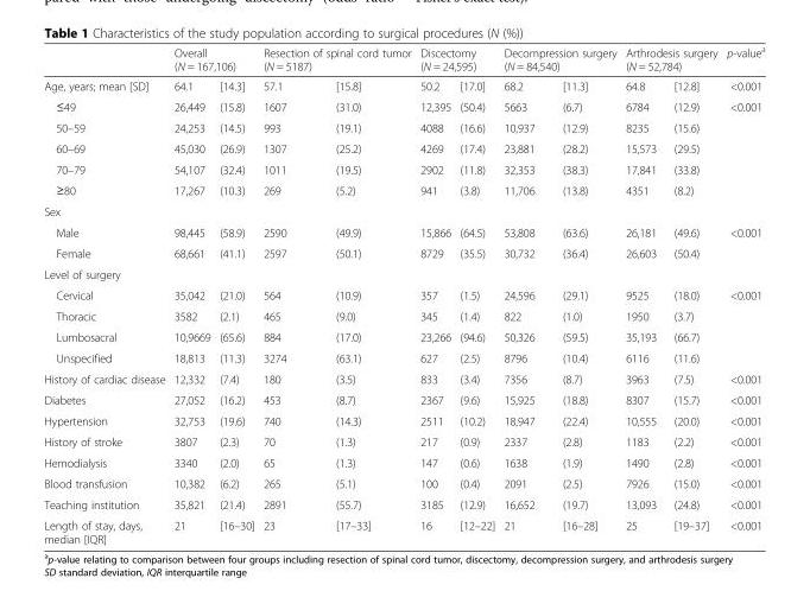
<table><thead><tr><td rowspan="2">Age, years; mean [SD]</td><td colspan="2">Overall (N = 167,106)</td><td colspan="2">Resection of spinal cord tumor (N = 5187)</td><td colspan="2">Discectomy (N = 24,595)</td><td colspan="2">Decompression surgery (N = 84,540)</td><td colspan="2">Arthrodesis surgery (N = 52,784)</td><td rowspan="2">p-value<sup>a</sup> &lt;0.001</td></tr><tr><td>64.1</td><td>[14.3]</td><td>57.1</td><td>[15.8]</td><td>50.2</td><td>[17.0]</td><td>68.2</td><td>[11.3]</td><td>64.8</td><td>[12.8]</td></tr></thead><tbody><tr><td>≤49</td><td>26,449</td><td>(15.8)</td><td>1607</td><td>(31.0)</td><td>12,395</td><td>(50.4)</td><td>5663</td><td>(6.7)</td><td>6784</td><td>(12.9)</td><td>&lt;0.001</td></tr><tr><td>50–59</td><td>24,253</td><td>(14.5)</td><td>993</td><td>(19.1)</td><td>4088</td><td>(16.6)</td><td>10,937</td><td>(12.9)</td><td>8235</td><td>(15.6)</td><td></td></tr><tr><td>60–69</td><td>45,030</td><td>(26.9)</td><td>1307</td><td>(25.2)</td><td>4269</td><td>(17.4)</td><td>23,881</td><td>(28.2)</td><td>15,573</td><td>(29.5)</td><td></td></tr><tr><td>70–79</td><td>54,107</td><td>(32.4)</td><td>1011</td><td>(19.5)</td><td>2902</td><td>(11.8)</td><td>32,353</td><td>(38.3)</td><td>17,841</td><td>(33.8)</td><td></td></tr><tr><td>≥80</td><td>17,267</td><td>(10.3)</td><td>269</td><td>(5.2)</td><td>941</td><td>(3.8)</td><td>11,706</td><td>(13.8)</td><td>4351</td><td>(8.2)</td><td></td></tr><tr><td colspan="12">Sex</td></tr><tr><td>Male</td><td>98,445</td><td>(58.9)</td><td>2590</td><td>(49.9)</td><td>15,866</td><td>(64.5)</td><td>53,808</td><td>(63.6)</td><td>26,181</td><td>(49.6)</td><td>&lt;0.001</td></tr><tr><td>Female</td><td>68,661</td><td>(41.1)</td><td>2597</td><td>(50.1)</td><td>8729</td><td>(35.5)</td><td>30,732</td><td>(36.4)</td><td>26,603</td><td>(50.4)</td><td></td></tr><tr><td colspan="12">Level of surgery</td></tr><tr><td>Cervical</td><td>35,042</td><td>(21.0)</td><td>564</td><td>(10.9)</td><td>357</td><td>(1.5)</td><td>24,596</td><td>(29.1)</td><td>9525</td><td>(18.0)</td><td>&lt;0.001</td></tr><tr><td>Thoracic</td><td>3582</td><td>(2.1)</td><td>465</td><td>(9.0)</td><td>345</td><td>(1.4)</td><td>822</td><td>(1.0)</td><td>1950</td><td>(3.7)</td><td></td></tr><tr><td>Lumbosacral</td><td>10,9669</td><td>(65.6)</td><td>884</td><td>(17.0)</td><td>23,266</td><td>(94.6)</td><td>50,326</td><td>(59.5)</td><td>35,193</td><td>(66.7)</td><td></td></tr><tr><td>Unspecified</td><td>18,813</td><td>(11.3)</td><td>3274</td><td>(63.1)</td><td>627</td><td>(2.5)</td><td>8796</td><td>(10.4)</td><td>6116</td><td>(11.6)</td><td></td></tr><tr><td>History of cardiac disease</td><td>12,332</td><td>(7.4)</td><td>180</td><td>(3.5)</td><td>833</td><td>(3.4)</td><td>7356</td><td>(8.7)</td><td>3963</td><td>(7.5)</td><td>&lt;0.001</td></tr><tr><td>Diabetes</td><td>27,052</td><td>(16.2)</td><td>453</td><td>(8.7)</td><td>2367</td><td>(9.6)</td><td>15,925</td><td>(18.8)</td><td>8307</td><td>(15.7)</td><td>&lt;0.001</td></tr><tr><td>Hypertension</td><td>32,753</td><td>(19.6)</td><td>740</td><td>(14.3)</td><td>2511</td><td>(10.2)</td><td>18,947</td><td>(22.4)</td><td>10,555</td><td>(20.0)</td><td>&lt;0.001</td></tr><tr><td>History of stroke</td><td>3807</td><td>(2.3)</td><td>70</td><td>(1.3)</td><td>217</td><td>(0.9)</td><td>2337</td><td>(2.8)</td><td>1183</td><td>(2.2)</td><td>&lt;0.001</td></tr><tr><td>Hemodialysis</td><td>3340</td><td>(2.0)</td><td>65</td><td>(1.3)</td><td>147</td><td>(0.6)</td><td>1638</td><td>(1.9)</td><td>1490</td><td>(2.8)</td><td>&lt;0.001</td></tr><tr><td>Blood transfusion</td><td>10,382</td><td>(6.2)</td><td>265</td><td>(5.1)</td><td>100</td><td>(0.4)</td><td>2091</td><td>(2.5)</td><td>7926</td><td>(15.0)</td><td>&lt;0.001</td></tr><tr><td>Teaching institution</td><td>35,821</td><td>(21.4)</td><td>2891</td><td>(55.7)</td><td>3185</td><td>(12.9)</td><td>16,652</td><td>(19.7)</td><td>13,093</td><td>(24.8)</td><td>&lt;0.001</td></tr><tr><td>Length of stay, days, median [IQR]</td><td>21</td><td>[16–30]</td><td>23</td><td>[17–33]</td><td>16</td><td>[12–22]</td><td>21</td><td>[16–28]</td><td>25</td><td>[19–37]</td><td>&lt;0.001</td></tr></tbody></table>